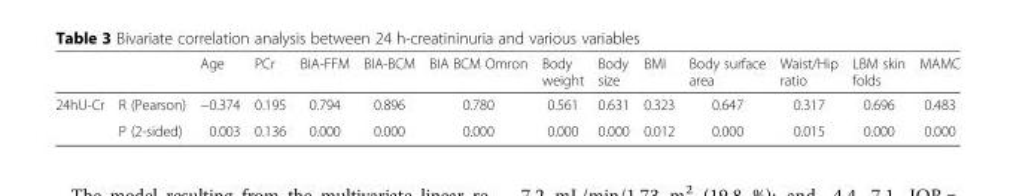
<table><thead><tr><td></td><td></td><td>Age</td><td>PCr</td><td>BIA-FFM</td><td>BIA-BCM</td><td>BIA BCM Omron</td><td>Body weight</td><td>Body size</td><td>BMI</td><td>Body surface area</td><td>Waist/Hip ratio</td><td>LBM skin folds</td><td>MAMC</td></tr></thead><tbody><tr><td rowspan="2">24hU-Cr</td><td>R (Pearson)</td><td>−0.374</td><td>0.195</td><td>0.794</td><td>0.896</td><td>0.780</td><td>0.561</td><td>0.631</td><td>0.323</td><td>0.647</td><td>0.317</td><td>0.696</td><td>0.483</td></tr><tr><td>P (2-sided)</td><td>0.003</td><td>0.136</td><td>0.000</td><td>0.000</td><td>0.000</td><td>0.000</td><td>0.000</td><td>0.012</td><td>0.000</td><td>0.015</td><td>0.000</td><td>0.000</td></tr></tbody></table>